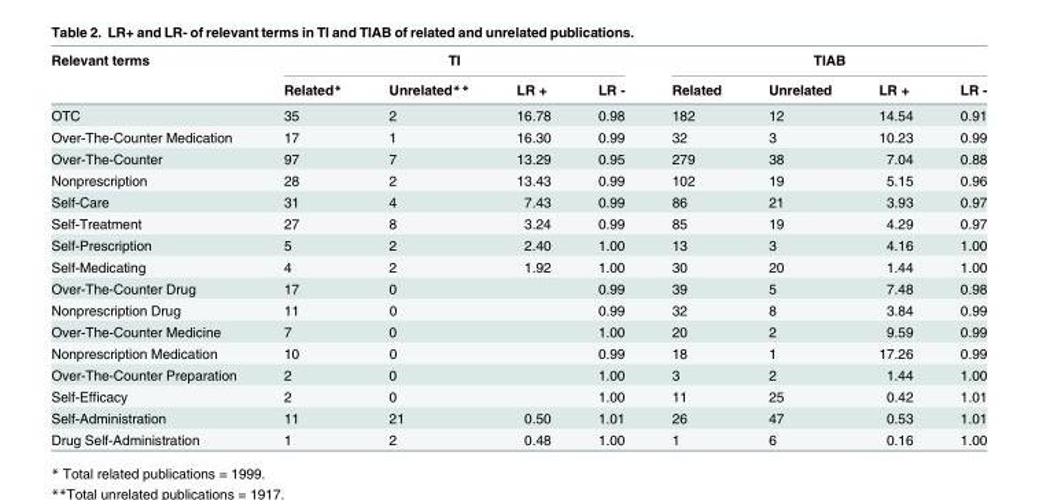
<table><thead><tr><td rowspan="2">Relevant terms</td><td colspan="4">TI</td><td colspan="4">TIAB</td></tr><tr><td>Related*</td><td>Unrelated**</td><td>LR +</td><td>LR -</td><td>Related</td><td>Unrelated</td><td>LR +</td><td>LR -</td></tr></thead><tbody><tr><td>OTC</td><td>35</td><td>2</td><td>16.78</td><td>0.98</td><td>182</td><td>12</td><td>14.54</td><td>0.91</td></tr><tr><td>Over-The-Counter Medication</td><td>17</td><td>1</td><td>16.30</td><td>0.99</td><td>32</td><td>3</td><td>10.23</td><td>0.99</td></tr><tr><td>Over-The-Counter</td><td>97</td><td>7</td><td>13.29</td><td>0.95</td><td>279</td><td>38</td><td>7.04</td><td>0.88</td></tr><tr><td>Nonprescription</td><td>28</td><td>2</td><td>13.43</td><td>0.99</td><td>102</td><td>19</td><td>5.15</td><td>0.96</td></tr><tr><td>Self-Care</td><td>31</td><td>4</td><td>7.43</td><td>0.99</td><td>86</td><td>21</td><td>3.93</td><td>0.97</td></tr><tr><td>Self-Treatment</td><td>27</td><td>8</td><td>3.24</td><td>0.99</td><td>85</td><td>19</td><td>4.29</td><td>0.97</td></tr><tr><td>Self-Prescription</td><td>5</td><td>2</td><td>2.40</td><td>1.00</td><td>13</td><td>3</td><td>4.16</td><td>1.00</td></tr><tr><td>Self-Medicating</td><td>4</td><td>2</td><td>1.92</td><td>1.00</td><td>30</td><td>20</td><td>1.44</td><td>1.00</td></tr><tr><td>Over-The-Counter Drug</td><td>17</td><td>0</td><td></td><td>0.99</td><td>39</td><td>5</td><td>7.48</td><td>0.98</td></tr><tr><td>Nonprescription Drug</td><td>11</td><td>0</td><td></td><td>0.99</td><td>32</td><td>8</td><td>3.84</td><td>0.99</td></tr><tr><td>Over-The-Counter Medicine</td><td>7</td><td>0</td><td></td><td>1.00</td><td>20</td><td>2</td><td>9.59</td><td>0.99</td></tr><tr><td>Nonprescription Medication</td><td>10</td><td>0</td><td></td><td>0.99</td><td>18</td><td>1</td><td>17.26</td><td>0.99</td></tr><tr><td>Over-The-Counter Preparation</td><td>2</td><td>0</td><td></td><td>1.00</td><td>3</td><td>2</td><td>1.44</td><td>1.00</td></tr><tr><td>Self-Efficacy</td><td>2</td><td>0</td><td></td><td>1.00</td><td>11</td><td>25</td><td>0.42</td><td>1.01</td></tr><tr><td>Self-Administration</td><td>11</td><td>21</td><td>0.50</td><td>1.01</td><td>26</td><td>47</td><td>0.53</td><td>1.01</td></tr><tr><td>Drug Self-Administration</td><td>1</td><td>2</td><td>0.48</td><td>1.00</td><td>1</td><td>6</td><td>0.16</td><td>1.00</td></tr></tbody></table>